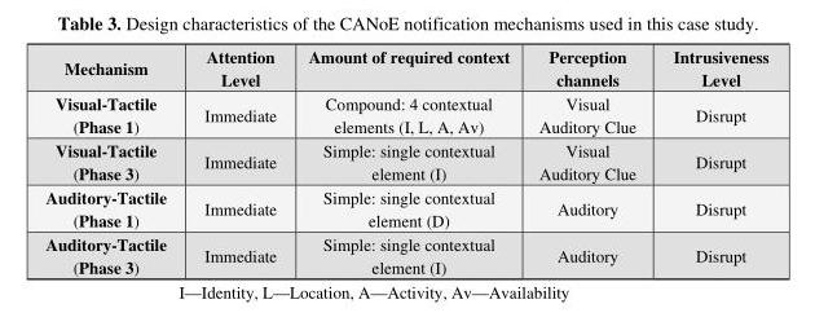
<table><thead><tr><td>Mechanism</td><td>Attention Level</td><td>Amount of required context</td><td>Perception channels</td><td>Intrusiveness Level</td></tr></thead><tbody><tr><td>Visual-Tactile (Phase 1)</td><td>Immediate</td><td>Compound: 4 contextual elements (I, L, A, Av)</td><td>Visual Auditory Clue</td><td>Disrupt</td></tr><tr><td>Visual-Tactile (Phase 3)</td><td>Immediate</td><td>Simple: single contextual element (I)</td><td>Visual Auditory Clue</td><td>Disrupt</td></tr><tr><td>Auditory-Tactile (Phase 1)</td><td>Immediate</td><td>Simple: single contextual element (D)</td><td>Auditory</td><td>Disrupt</td></tr><tr><td>Auditory-Tactile (Phase 3)</td><td>Immediate</td><td>Simple: single contextual element (I)</td><td>Auditory</td><td>Disrupt</td></tr></tbody></table>